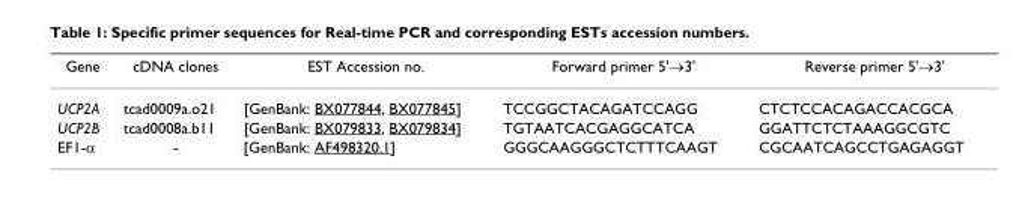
<table><thead><tr><td>Gene</td><td>cDNA clones</td><td>EST Accession no.</td><td>Forward primer 5&#x27;→3&#x27;</td><td>Reverse primer 5&#x27;→3&#x27;</td></tr></thead><tbody><tr><td>UCP2A</td><td>tcad0009a.o21</td><td>[GenBank: BX077844, BX077845]</td><td>TCCGGCTACAGATCCAGG</td><td>CTCTCCACAGACCACGCA</td></tr><tr><td>UCP2B</td><td>tcad0008a.b11</td><td>[GenBank: BX079833, BX079834]</td><td>TGTAATCACGAGGCATCA</td><td>GGATTCTCTAAAGGCGTC</td></tr><tr><td>EF1-α</td><td>-</td><td>[GenBank: AF498320.1]</td><td>GGGCAAGGGCTCTTTCAAGT</td><td>CGCAATCAGCCTGAGAGGT</td></tr></tbody></table>